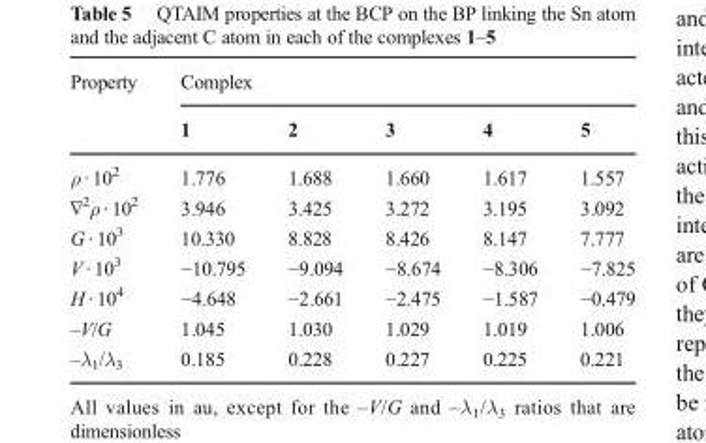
<table><thead><tr><td rowspan="2">Property</td><td colspan="5">Complex</td></tr><tr><td>1</td><td>2</td><td>3</td><td>4</td><td>5</td></tr></thead><tbody><tr><td>ρ · 10<sup>2</sup></td><td>1.776</td><td>1.688</td><td>1.660</td><td>1.617</td><td>1.557</td></tr><tr><td>∇<sup>2</sup>ρ · 10<sup>2</sup></td><td>3.946</td><td>3.425</td><td>3.272</td><td>3.195</td><td>3.092</td></tr><tr><td>G · 10<sup>3</sup></td><td>10.330</td><td>8.828</td><td>8.426</td><td>8.147</td><td>7.777</td></tr><tr><td>V · 10<sup>3</sup></td><td>−10.795</td><td>−9.094</td><td>−8.674</td><td>−8.306</td><td>−7.825</td></tr><tr><td>H · 10<sup>4</sup></td><td>−4.648</td><td>−2.661</td><td>−2.475</td><td>−1.587</td><td>−0.479</td></tr><tr><td>–V/G</td><td>1.045</td><td>1.030</td><td>1.029</td><td>1.019</td><td>1.006</td></tr><tr><td>–λ<sub>1</sub>/λ<sub>3</sub></td><td>0.185</td><td>0.228</td><td>0.227</td><td>0.225</td><td>0.221</td></tr></tbody></table>